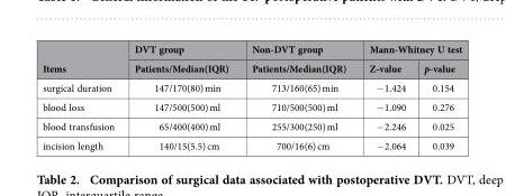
<table><thead><tr><td rowspan="2">Items</td><td rowspan="2">DVT group Patients/Median(IQR)</td><td rowspan="2">Non-DVT group Patients/Median(IQR)</td><td colspan="2">Mann-Whitney U test</td></tr><tr><td>Z-value</td><td>p-value</td></tr></thead><tbody><tr><td>surgical duration</td><td>147/170(80) min</td><td>713/160(65) min</td><td>− 1.424</td><td>0.154</td></tr><tr><td>blood loss</td><td>147/500(500) ml</td><td>710/500(500) ml</td><td>− 1.090</td><td>0.276</td></tr><tr><td>blood transfusion</td><td>65/400(400) ml</td><td>255/300(250) ml</td><td>− 2.246</td><td>0.025</td></tr><tr><td>incision length</td><td>140/15(5.5) cm</td><td>700/16(6) cm</td><td>− 2.064</td><td>0.039</td></tr></tbody></table>